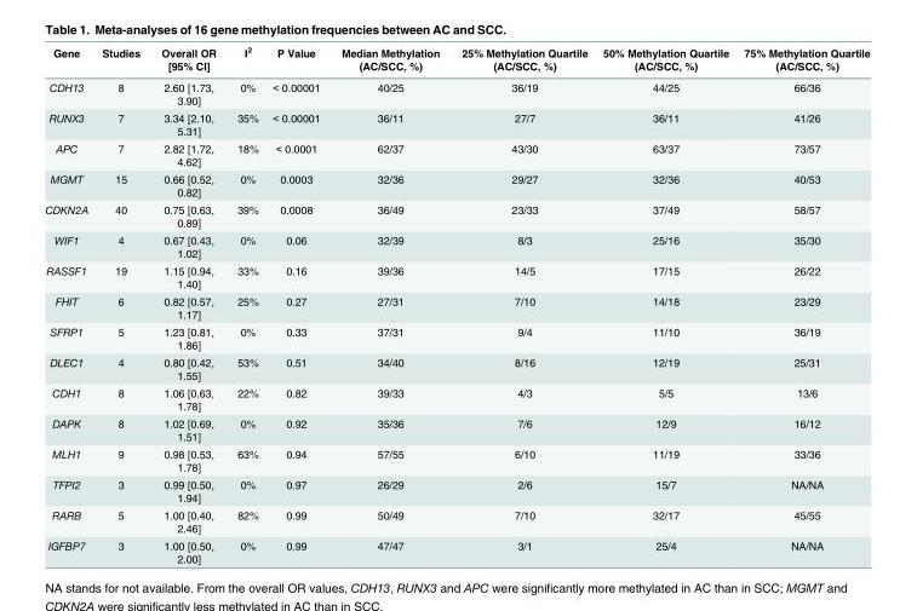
<table><thead><tr><td>Gene</td><td>Studies</td><td>Overall OR [95% CI]</td><td>I<sup>2</sup></td><td>P Value</td><td>Median Methylation (AC/SCC, %)</td><td>25% Methylation Quartile (AC/SCC, %)</td><td>50% Methylation Quartile (AC/SCC, %)</td><td>75% Methylation Quartile (AC/SCC, %)</td></tr></thead><tbody><tr><td>CDH13</td><td>8</td><td>2.60 [1.73, 3.90]</td><td>0%</td><td>&lt; 0.00001</td><td>40/25</td><td>36/19</td><td>44/25</td><td>66/36</td></tr><tr><td>RUNX3</td><td>7</td><td>3.34 [2.10, 5.31]</td><td>35%</td><td>&lt; 0.00001</td><td>36/11</td><td>27/7</td><td>36/11</td><td>41/26</td></tr><tr><td>APC</td><td>7</td><td>2.82 [1.72, 4.62]</td><td>18%</td><td>&lt; 0.0001</td><td>62/37</td><td>43/30</td><td>63/37</td><td>73/57</td></tr><tr><td>MGMT</td><td>15</td><td>0.66 [0.52, 0.82]</td><td>0%</td><td>0.0003</td><td>32/36</td><td>29/27</td><td>32/36</td><td>40/53</td></tr><tr><td>CDKN2A</td><td>40</td><td>0.75 [0.63, 0.89]</td><td>39%</td><td>0.0008</td><td>36/49</td><td>23/33</td><td>37/49</td><td>58/57</td></tr><tr><td>WIF1</td><td>4</td><td>0.67 [0.43, 1.02]</td><td>0%</td><td>0.06</td><td>32/39</td><td>8/3</td><td>25/16</td><td>35/30</td></tr><tr><td>RASSF1</td><td>19</td><td>1.15 [0.94, 1.40]</td><td>33%</td><td>0.16</td><td>39/36</td><td>14/5</td><td>17/15</td><td>26/22</td></tr><tr><td>FHIT</td><td>6</td><td>0.82 [0.57, 1.17]</td><td>25%</td><td>0.27</td><td>27/31</td><td>7/10</td><td>14/18</td><td>23/29</td></tr><tr><td>SFRP1</td><td>5</td><td>1.23 [0.81, 1.86]</td><td>0%</td><td>0.33</td><td>37/31</td><td>9/4</td><td>11/10</td><td>36/19</td></tr><tr><td>DLEC1</td><td>4</td><td>0.80 [0.42, 1.55]</td><td>53%</td><td>0.51</td><td>34/40</td><td>8/16</td><td>12/19</td><td>25/31</td></tr><tr><td>CDH1</td><td>8</td><td>1.06 [0.63, 1.78]</td><td>22%</td><td>0.82</td><td>39/33</td><td>4/3</td><td>5/5</td><td>13/6</td></tr><tr><td>DAPK</td><td>8</td><td>1.02 [0.69, 1.51]</td><td>0%</td><td>0.92</td><td>35/36</td><td>7/6</td><td>12/9</td><td>16/12</td></tr><tr><td>MLH1</td><td>9</td><td>0.98 [0.53, 1.78]</td><td>63%</td><td>0.94</td><td>57/55</td><td>6/10</td><td>11/19</td><td>33/36</td></tr><tr><td>TFPI2</td><td>3</td><td>0.99 [0.50, 1.94]</td><td>0%</td><td>0.97</td><td>26/29</td><td>2/6</td><td>15/7</td><td>NA/NA</td></tr><tr><td>RARB</td><td>5</td><td>1.00 [0.40, 2.46]</td><td>82%</td><td>0.99</td><td>50/49</td><td>7/10</td><td>32/17</td><td>45/55</td></tr><tr><td>IGFBP7</td><td>3</td><td>1.00 [0.50, 2.00]</td><td>0%</td><td>0.99</td><td>47/47</td><td>3/1</td><td>25/4</td><td>NA/NA</td></tr></tbody></table>